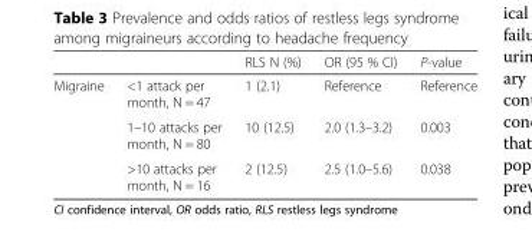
<table><thead><tr><td></td><td></td><td>RLS N (%)</td><td>OR (95 % CI)</td><td>P-value</td></tr></thead><tbody><tr><td rowspan="3">Migraine</td><td>&lt;1 attack per month, N = 47</td><td>1 (2.1)</td><td>Reference</td><td>Reference</td></tr><tr><td>1–10 attacks per month, N = 80</td><td>10 (12.5)</td><td>2.0 (1.3–3.2)</td><td>0.003</td></tr><tr><td>&gt;10 attacks per month, N = 16</td><td>2 (12.5)</td><td>2.5 (1.0–5.6)</td><td>0.038</td></tr></tbody></table>